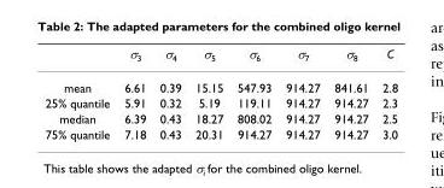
<table><thead><tr><td></td><td>σ<sub>3</sub></td><td>σ<sub>4</sub></td><td>σ<sub>5</sub></td><td>σ<sub>6</sub></td><td>σ<sub>7</sub></td><td>σ<sub>8</sub></td><td>C</td></tr></thead><tbody><tr><td>mean</td><td>6.61</td><td>0.39</td><td>15.15</td><td>547.93</td><td>914.27</td><td>841.61</td><td>2.8</td></tr><tr><td>25% quantile</td><td>5.91</td><td>0.32</td><td>5.19</td><td>119.11</td><td>914.27</td><td>914.27</td><td>2.3</td></tr><tr><td>median</td><td>6.39</td><td>0.43</td><td>18.27</td><td>808.02</td><td>914.27</td><td>914.27</td><td>2.5</td></tr><tr><td>75% quantile</td><td>7.18</td><td>0.43</td><td>20.31</td><td>914.27</td><td>914.27</td><td>914.27</td><td>3.0</td></tr></tbody></table>